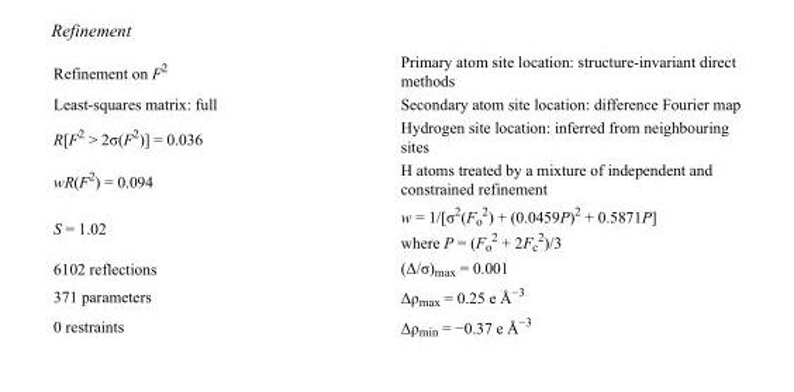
<table><tbody><tr><td>Refinement on F<sup>2</sup></td><td>Primary atom site location: structure-invariant direct methods</td></tr><tr><td>Least-squares matrix: full</td><td>Secondary atom site location: difference Fourier map</td></tr><tr><td>R[F<sup>2</sup> &gt; 2σ(F<sup>2</sup>)] = 0.036</td><td>Hydrogen site location: inferred from neighbouring sites</td></tr><tr><td>wR(F<sup>2</sup>) = 0.094</td><td>H atoms treated by a mixture of independent and constrained refinement</td></tr><tr><td>S = 1.02</td><td>w = 1/[σ<sup>2</sup>(F<sub>o</sub> <sup>2</sup>) + (0.0459P)<sup>2</sup> + 0.5871P] where P = (F<sub>o</sub> <sup>2</sup> + 2F<sub>c</sub> <sup>2</sup>)/3</td></tr><tr><td>6102 reflections</td><td>(Δ/σ)<sub>max</sub> = 0.001</td></tr><tr><td>371 parameters</td><td>Δρ<sub>max</sub> = 0.25 e Å<sup>−3</sup></td></tr><tr><td>0 restraints</td><td>Δρ<sub>min</sub> = −0.37 e Å<sup>−3</sup></td></tr></tbody></table>